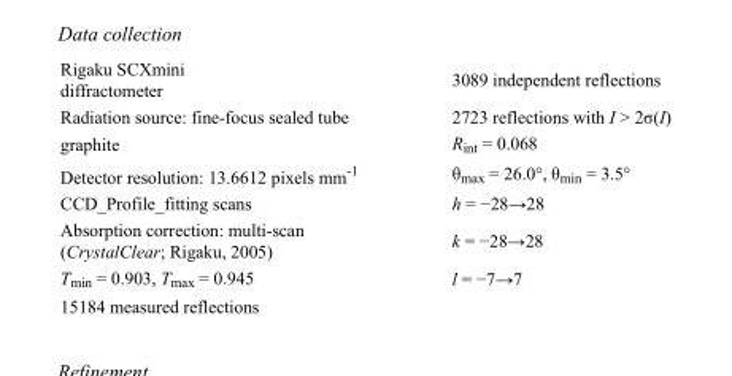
<table><tbody><tr><td>Rigaku SCXmini diffractometer</td><td>3089 independent reflections</td></tr><tr><td>Radiation source: fine-focus sealed tube</td><td>2723 reflections with I &gt; 2σ(I)</td></tr><tr><td>graphite</td><td>R<sub>int</sub> = 0.068</td></tr><tr><td>Detector resolution: 13.6612 pixels mm<sup>-1</sup></td><td>θ<sub>max</sub> = 26.0°, θ<sub>min</sub> = 3.5°</td></tr><tr><td>CCD_Profile_fitting scans</td><td>h = −28→28</td></tr><tr><td>Absorption correction: multi-scan (CrystalClear; Rigaku, 2005)</td><td>k = −28→28</td></tr><tr><td>T<sub>min</sub> = 0.903, T<sub>max</sub> = 0.945</td><td>l = −7→7</td></tr><tr><td>15184 measured reflections</td><td></td></tr></tbody></table>